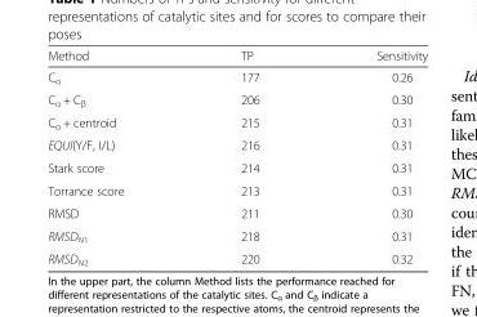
<table><thead><tr><td>Method</td><td>TP</td><td>Sensitivity</td></tr></thead><tbody><tr><td>C<sub>α</sub></td><td>177</td><td>0.26</td></tr><tr><td>C<sub>α</sub> + C<sub>β</sub></td><td>206</td><td>0.30</td></tr><tr><td>C<sub>α</sub> + centroid</td><td>215</td><td>0.31</td></tr><tr><td>EQUI(Y/F, I/L)</td><td>216</td><td>0.31</td></tr><tr><td>Stark score</td><td>214</td><td>0.31</td></tr><tr><td>Torrance score</td><td>213</td><td>0.31</td></tr><tr><td>RMSD</td><td>211</td><td>0.30</td></tr><tr><td>RMSD<sub>N1</sub></td><td>218</td><td>0.31</td></tr><tr><td>RMSD<sub>N2</sub></td><td>220</td><td>0.32</td></tr></tbody></table>